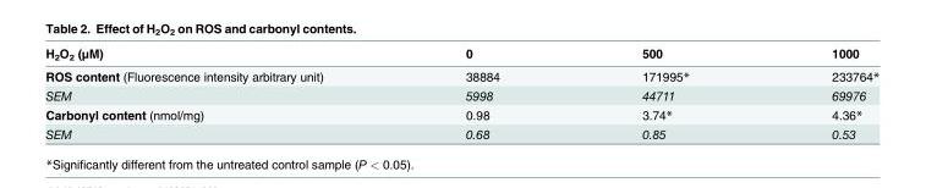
<table><thead><tr><td>H<sub>2</sub>O<sub>2</sub> (μM)</td><td>0</td><td>500</td><td>1000</td></tr></thead><tbody><tr><td>ROS content (Fluorescence intensity arbitrary unit)</td><td>38884</td><td>171995*</td><td>233764*</td></tr><tr><td>SEM</td><td>5998</td><td>44711</td><td>69976</td></tr><tr><td>Carbonyl content (nmol/mg)</td><td>0.98</td><td>3.74*</td><td>4.36*</td></tr><tr><td>SEM</td><td>0.68</td><td>0.85</td><td>0.53</td></tr></tbody></table>